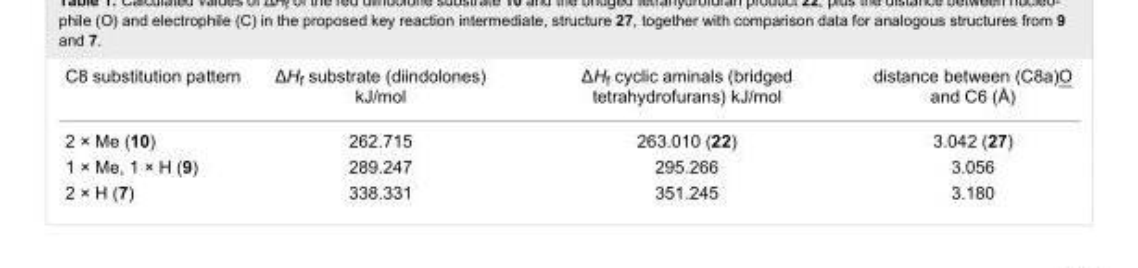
<table><tbody><tr><td>C8 substitution pattern</td><td>ΔH<sub>f</sub> substrate (diindolones) kJ/mol</td><td>ΔH<sub>f</sub> cyclic aminals (bridged tetrahydrofurans) kJ/mol</td><td>distance between (C8a)O and C6 (Å)</td></tr><tr><td>2 × Me (10)</td><td>262.715</td><td>263.010 (22)</td><td>3.042 (27)</td></tr><tr><td>1 × Me, 1 × H (9)</td><td>289.247</td><td>295.266</td><td>3.056</td></tr><tr><td>2 × H (7)</td><td>338.331</td><td>351.245</td><td>3.180</td></tr></tbody></table>